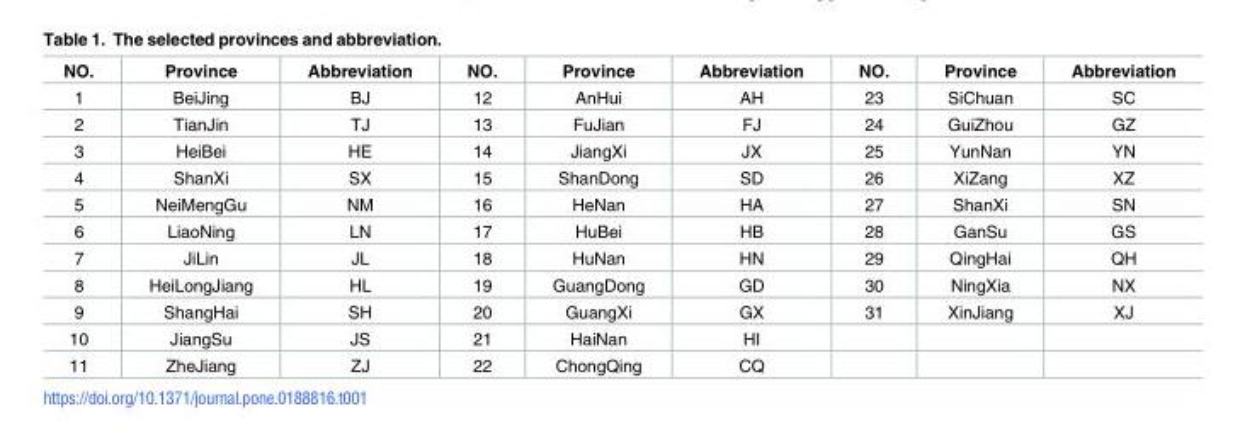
<table><thead><tr><td>NO.</td><td>Province</td><td>Abbreviation</td><td>NO.</td><td>Province</td><td>Abbreviation</td><td>NO.</td><td>Province</td><td>Abbreviation</td></tr></thead><tbody><tr><td>1</td><td>BeiJing</td><td>BJ</td><td>12</td><td>AnHui</td><td>AH</td><td>23</td><td>SiChuan</td><td>SC</td></tr><tr><td>2</td><td>TianJin</td><td>TJ</td><td>13</td><td>FuJian</td><td>FJ</td><td>24</td><td>GuiZhou</td><td>GZ</td></tr><tr><td>3</td><td>HeiBei</td><td>HE</td><td>14</td><td>JiangXi</td><td>JX</td><td>25</td><td>YunNan</td><td>YN</td></tr><tr><td>4</td><td>ShanXi</td><td>SX</td><td>15</td><td>ShanDong</td><td>SD</td><td>26</td><td>XiZang</td><td>XZ</td></tr><tr><td>5</td><td>NeiMengGu</td><td>NM</td><td>16</td><td>HeNan</td><td>HA</td><td>27</td><td>ShanXi</td><td>SN</td></tr><tr><td>6</td><td>LiaoNing</td><td>LN</td><td>17</td><td>HuBei</td><td>HB</td><td>28</td><td>GanSu</td><td>GS</td></tr><tr><td>7</td><td>JiLin</td><td>JL</td><td>18</td><td>HuNan</td><td>HN</td><td>29</td><td>QingHai</td><td>QH</td></tr><tr><td>8</td><td>HeiLongJiang</td><td>HL</td><td>19</td><td>GuangDong</td><td>GD</td><td>30</td><td>NingXia</td><td>NX</td></tr><tr><td>9</td><td>ShangHai</td><td>SH</td><td>20</td><td>GuangXi</td><td>GX</td><td>31</td><td>XinJiang</td><td>XJ</td></tr><tr><td>10</td><td>JiangSu</td><td>JS</td><td>21</td><td>HaiNan</td><td>HI</td><td></td><td></td><td></td></tr><tr><td>11</td><td>ZheJiang</td><td>ZJ</td><td>22</td><td>ChongQing</td><td>CQ</td><td></td><td></td><td></td></tr></tbody></table>